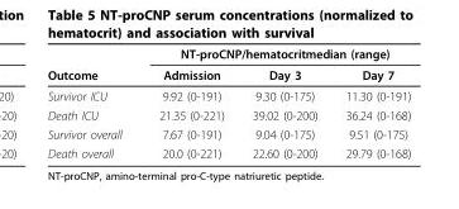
<table><thead><tr><td rowspan="2">Outcome</td><td colspan="3">NT-proCNP/hematocritmedian (range)</td></tr><tr><td>Admission</td><td>Day 3</td><td>Day 7</td></tr></thead><tbody><tr><td>Survivor ICU</td><td>9.92 (0-191)</td><td>9.30 (0-175)</td><td>11.30 (0-191)</td></tr><tr><td>Death ICU</td><td>21.35 (0-221)</td><td>39.02 (0-200)</td><td>36.24 (0-168)</td></tr><tr><td>Survivor overall</td><td>7.67 (0-191)</td><td>9.04 (0-175)</td><td>9.51 (0-175)</td></tr><tr><td>Death overall</td><td>20.0 (0-221)</td><td>22.60 (0-200)</td><td>29.79 (0-168)</td></tr></tbody></table>